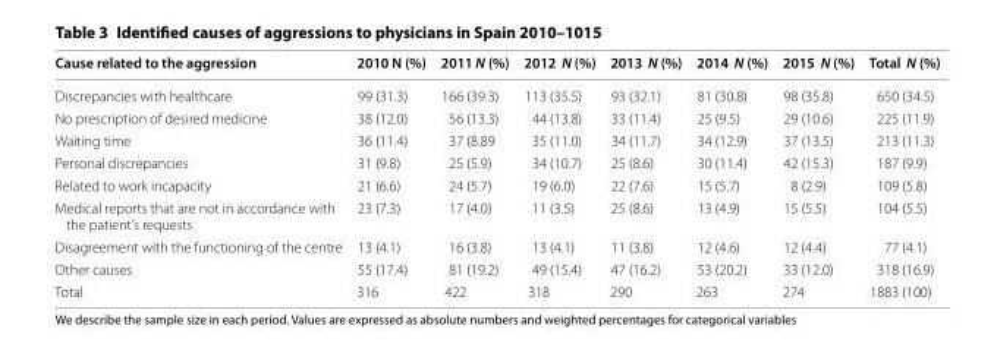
<table><thead><tr><td>Cause related to the aggression</td><td>2010 N (%)</td><td>2011 N (%)</td><td>2012 N (%)</td><td>2013 N (%)</td><td>2014 N (%)</td><td>2015 N (%)</td><td>Total N (%)</td></tr></thead><tbody><tr><td>Discrepancies with healthcare</td><td>99 (31.3)</td><td>166 (39.3)</td><td>113 (35.5)</td><td>93 (32.1)</td><td>81 (30.8)</td><td>98 (35.8)</td><td>650 (34.5)</td></tr><tr><td>No prescription of desired medicine</td><td>38 (12.0)</td><td>56 (13.3)</td><td>44 (13.8)</td><td>33 (11.4)</td><td>25 (9.5)</td><td>29 (10.6)</td><td>225 (11.9)</td></tr><tr><td>Waiting time</td><td>36 (11.4)</td><td>37 (8.89</td><td>35 (11.0)</td><td>34 (11.7)</td><td>34 (12.9)</td><td>37 (13.5)</td><td>213 (11.3)</td></tr><tr><td>Personal discrepancies</td><td>31 (9.8)</td><td>25 (5.9)</td><td>34 (10.7)</td><td>25 (8.6)</td><td>30 (11.4)</td><td>42 (15.3)</td><td>187 (9.9)</td></tr><tr><td>Related to work incapacity</td><td>21 (6.6)</td><td>24 (5.7)</td><td>19 (6.0)</td><td>22 (7.6)</td><td>15 (5.7)</td><td>8 (2.9)</td><td>109 (5.8)</td></tr><tr><td>Medical reports that are not in accordance with the patient’s requests</td><td>23 (7.3)</td><td>17 (4.0)</td><td>11 (3.5)</td><td>25 (8.6)</td><td>13 (4.9)</td><td>15 (5.5)</td><td>104 (5.5)</td></tr><tr><td>Disagreement with the functioning of the centre</td><td>13 (4.1)</td><td>16 (3.8)</td><td>13 (4.1)</td><td>11 (3.8)</td><td>12 (4.6)</td><td>12 (4.4)</td><td>77 (4.1)</td></tr><tr><td>Other causes</td><td>55 (17.4)</td><td>81 (19.2)</td><td>49 (15.4)</td><td>47 (16.2)</td><td>53 (20.2)</td><td>33 (12.0)</td><td>318 (16.9)</td></tr><tr><td>Total</td><td>316</td><td>422</td><td>318</td><td>290</td><td>263</td><td>274</td><td>1883 (100)</td></tr></tbody></table>